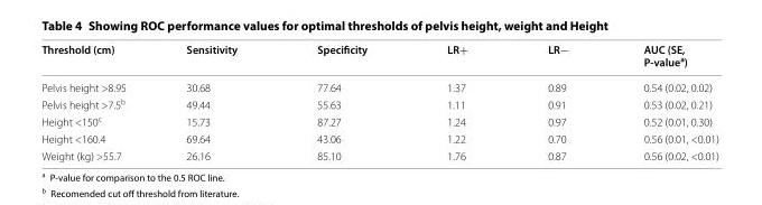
<table><thead><tr><td>Threshold (cm)</td><td>Sensitivity</td><td>Specificity</td><td>LR+</td><td>LR−</td><td>AUC (SE, P-value<sup>a</sup>)</td></tr></thead><tbody><tr><td>Pelvis height &gt;8.95</td><td>30.68</td><td>77.64</td><td>1.37</td><td>0.89</td><td>0.54 (0.02, 0.02)</td></tr><tr><td>Pelvis height &gt;7.5<sup>b</sup></td><td>49.44</td><td>55.63</td><td>1.11</td><td>0.91</td><td>0.53 (0.02, 0.21)</td></tr><tr><td>Height &lt;150<sup>c</sup></td><td>15.73</td><td>87.27</td><td>1.24</td><td>0.97</td><td>0.52 (0.01, 0.30)</td></tr><tr><td>Height &lt;160.4</td><td>69.64</td><td>43.06</td><td>1.22</td><td>0.70</td><td>0.56 (0.01, &lt;0.01)</td></tr><tr><td>Weight (kg) &gt;55.7</td><td>26.16</td><td>85.10</td><td>1.76</td><td>0.87</td><td>0.56 (0.02, &lt;0.01)</td></tr></tbody></table>